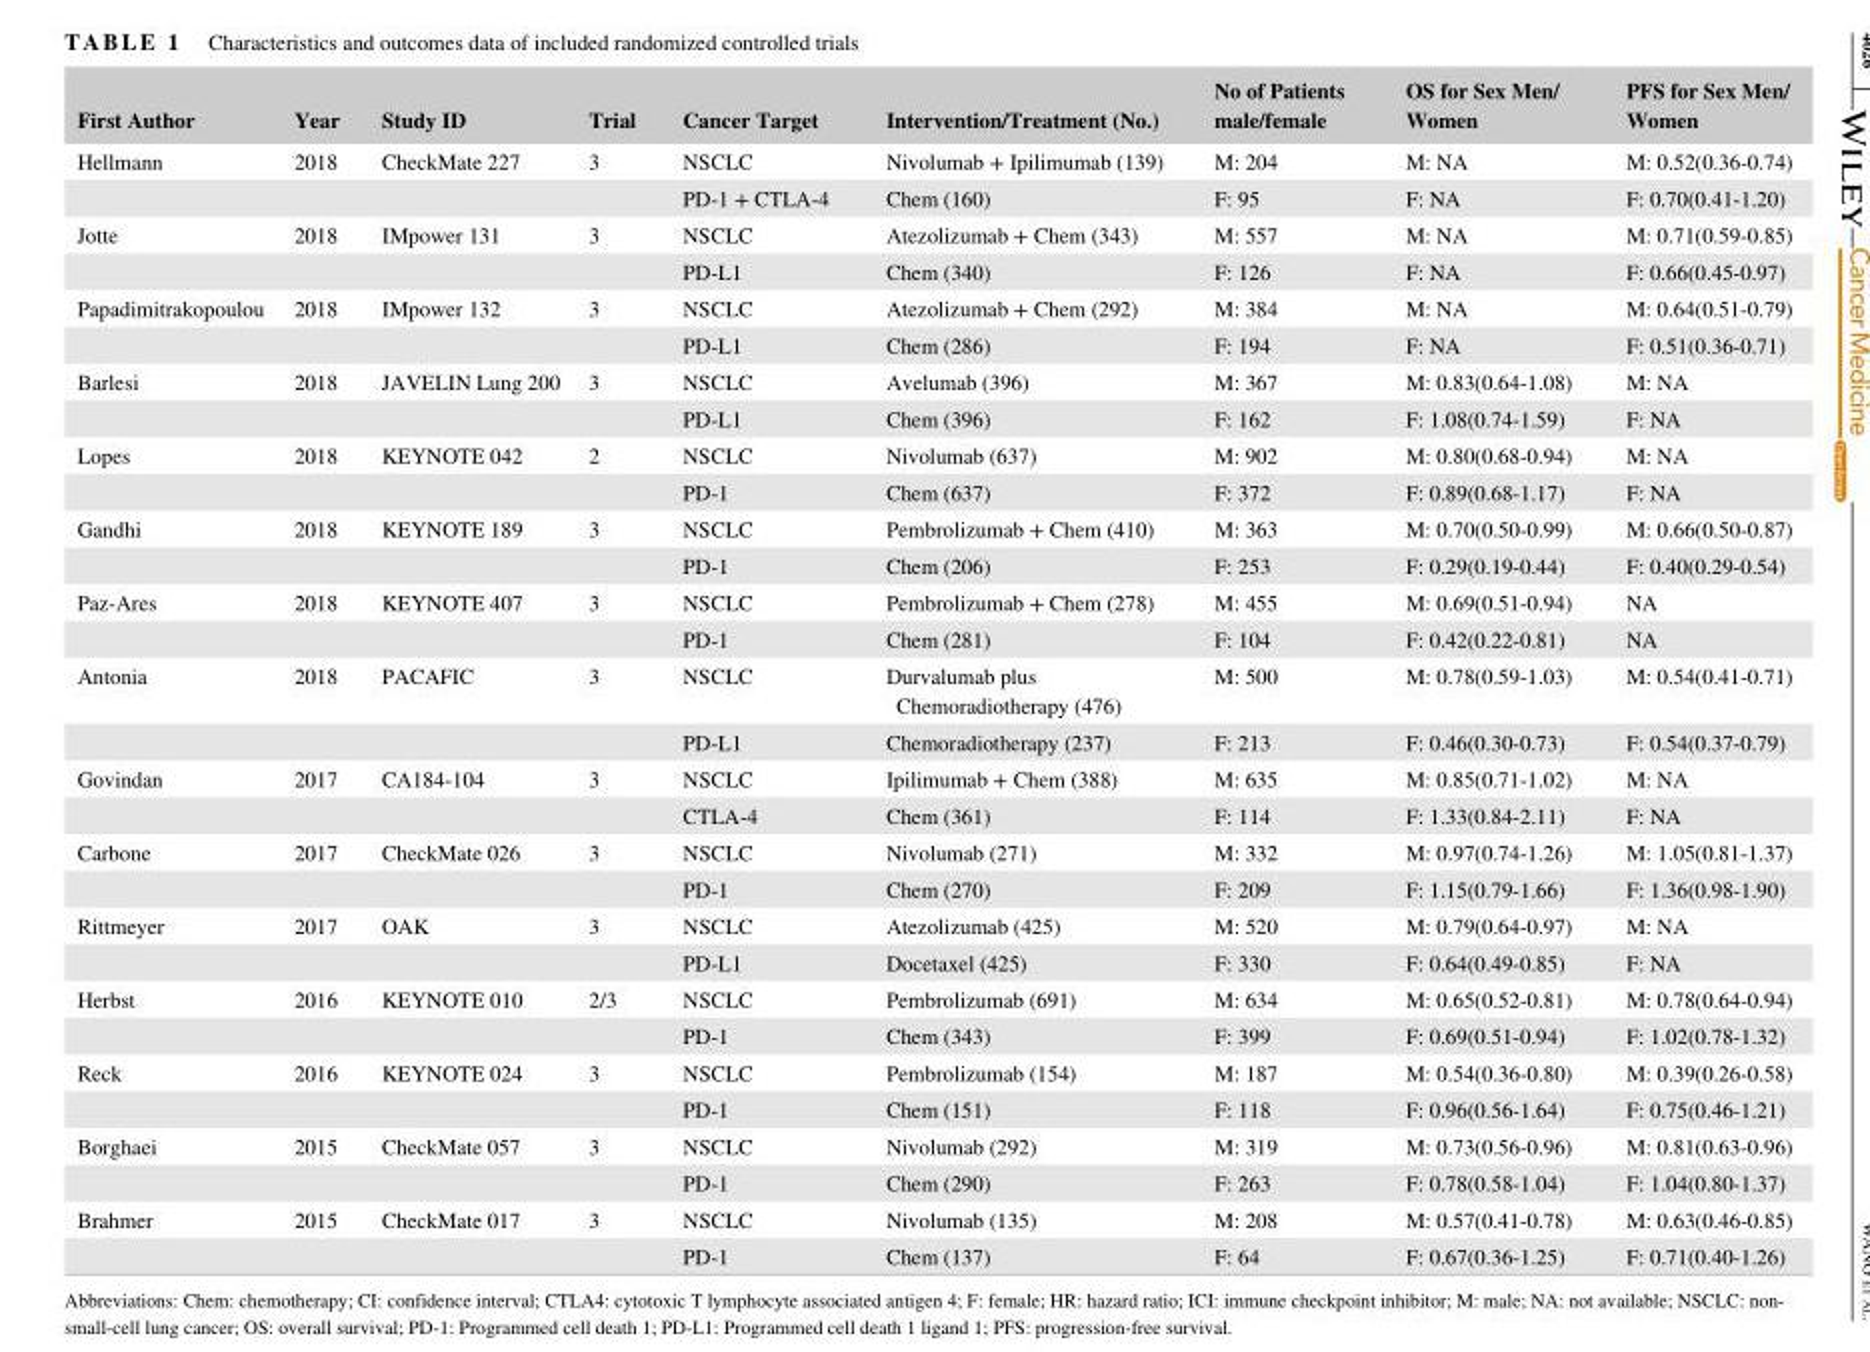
<table><thead><tr><td>First Author</td><td>Year</td><td>Study ID</td><td>Trial</td><td>Cancer Target</td><td>Intervention/Treatment (No.)</td><td>No of Patients male/female</td><td>OS for Sex Men/ Women</td><td>PFS for Sex Men/ Women</td></tr></thead><tbody><tr><td rowspan="2">Hellmann</td><td>2018</td><td>CheckMate 227</td><td>3</td><td>NSCLC</td><td>Nivolumab + Ipilimumab (139)</td><td>M: 204</td><td>M: NA</td><td>M: 0.52(0.36‐0.74)</td></tr><tr><td></td><td></td><td></td><td>PD‐1 + CTLA‐4</td><td>Chem (160)</td><td>F: 95</td><td>F: NA</td><td>F: 0.70(0.41‐1.20)</td></tr><tr><td rowspan="2">Jotte</td><td>2018</td><td>IMpower 131</td><td>3</td><td>NSCLC</td><td>Atezolizumab + Chem (343)</td><td>M: 557</td><td>M: NA</td><td>M: 0.71(0.59‐0.85)</td></tr><tr><td></td><td></td><td></td><td>PD‐L1</td><td>Chem (340)</td><td>F: 126</td><td>F: NA</td><td>F: 0.66(0.45‐0.97)</td></tr><tr><td rowspan="2">Papadimitrakopoulou</td><td>2018</td><td>IMpower 132</td><td>3</td><td>NSCLC</td><td>Atezolizumab + Chem (292)</td><td>M: 384</td><td>M: NA</td><td>M: 0.64(0.51‐0.79)</td></tr><tr><td></td><td></td><td></td><td>PD‐L1</td><td>Chem (286)</td><td>F: 194</td><td>F: NA</td><td>F: 0.51(0.36‐0.71)</td></tr><tr><td rowspan="2">Barlesi</td><td>2018</td><td>JAVELIN Lung 200</td><td>3</td><td>NSCLC</td><td>Avelumab (396)</td><td>M: 367</td><td>M: 0.83(0.64‐1.08)</td><td>M: NA</td></tr><tr><td></td><td></td><td></td><td>PD‐L1</td><td>Chem (396)</td><td>F: 162</td><td>F: 1.08(0.74‐1.59)</td><td>F: NA</td></tr><tr><td rowspan="2">Lopes</td><td>2018</td><td>KEYNOTE 042</td><td>2</td><td>NSCLC</td><td>Nivolumab (637)</td><td>M: 902</td><td>M: 0.80(0.68‐0.94)</td><td>M: NA</td></tr><tr><td></td><td></td><td></td><td>PD‐1</td><td>Chem (637)</td><td>F: 372</td><td>F: 0.89(0.68‐1.17)</td><td>F: NA</td></tr><tr><td rowspan="2">Gandhi</td><td>2018</td><td>KEYNOTE 189</td><td>3</td><td>NSCLC</td><td>Pembrolizumab + Chem (410)</td><td>M: 363</td><td>M: 0.70(0.50‐0.99)</td><td>M: 0.66(0.50‐0.87)</td></tr><tr><td></td><td></td><td></td><td>PD‐1</td><td>Chem (206)</td><td>F: 253</td><td>F: 0.29(0.19‐0.44)</td><td>F: 0.40(0.29‐0.54)</td></tr><tr><td rowspan="2">Paz‐Ares</td><td>2018</td><td>KEYNOTE 407</td><td>3</td><td>NSCLC</td><td>Pembrolizumab + Chem (278)</td><td>M: 455</td><td>M: 0.69(0.51‐0.94)</td><td>NA</td></tr><tr><td></td><td></td><td></td><td>PD‐1</td><td>Chem (281)</td><td>F: 104</td><td>F: 0.42(0.22‐0.81)</td><td>NA</td></tr><tr><td rowspan="2">Antonia</td><td>2018</td><td>PACAFIC</td><td>3</td><td>NSCLC</td><td>Durvalumab plus Chemoradiotherapy (476)</td><td>M: 500</td><td>M: 0.78(0.59‐1.03)</td><td>M: 0.54(0.41‐0.71)</td></tr><tr><td></td><td></td><td></td><td>PD‐L1</td><td>Chemoradiotherapy (237)</td><td>F: 213</td><td>F: 0.46(0.30‐0.73)</td><td>F: 0.54(0.37‐0.79)</td></tr><tr><td rowspan="2">Govindan</td><td>2017</td><td>CA184‐104</td><td>3</td><td>NSCLC</td><td>Ipilimumab + Chem (388)</td><td>M: 635</td><td>M: 0.85(0.71‐1.02)</td><td>M: NA</td></tr><tr><td></td><td></td><td></td><td>CTLA‐4</td><td>Chem (361)</td><td>F: 114</td><td>F: 1.33(0.84‐2.11)</td><td>F: NA</td></tr><tr><td rowspan="2">Carbone</td><td>2017</td><td>CheckMate 026</td><td>3</td><td>NSCLC</td><td>Nivolumab (271)</td><td>M: 332</td><td>M: 0.97(0.74‐1.26)</td><td>M: 1.05(0.81‐1.37)</td></tr><tr><td></td><td></td><td></td><td>PD‐1</td><td>Chem (270)</td><td>F: 209</td><td>F: 1.15(0.79‐1.66)</td><td>F: 1.36(0.98‐1.90)</td></tr><tr><td rowspan="2">Rittmeyer</td><td>2017</td><td>OAK</td><td>3</td><td>NSCLC</td><td>Atezolizumab (425)</td><td>M: 520</td><td>M: 0.79(0.64‐0.97)</td><td>M: NA</td></tr><tr><td></td><td></td><td></td><td>PD‐L1</td><td>Docetaxel (425)</td><td>F: 330</td><td>F: 0.64(0.49‐0.85)</td><td>F: NA</td></tr><tr><td rowspan="2">Herbst</td><td>2016</td><td>KEYNOTE 010</td><td>2/3</td><td>NSCLC</td><td>Pembrolizumab (691)</td><td>M: 634</td><td>M: 0.65(0.52‐0.81)</td><td>M: 0.78(0.64‐0.94)</td></tr><tr><td></td><td></td><td></td><td>PD‐1</td><td>Chem (343)</td><td>F: 399</td><td>F: 0.69(0.51‐0.94)</td><td>F: 1.02(0.78‐1.32)</td></tr><tr><td rowspan="2">Reck</td><td>2016</td><td>KEYNOTE 024</td><td>3</td><td>NSCLC</td><td>Pembrolizumab (154)</td><td>M: 187</td><td>M: 0.54(0.36‐0.80)</td><td>M: 0.39(0.26‐0.58)</td></tr><tr><td></td><td></td><td></td><td>PD‐1</td><td>Chem (151)</td><td>F: 118</td><td>F: 0.96(0.56‐1.64)</td><td>F: 0.75(0.46‐1.21)</td></tr><tr><td rowspan="2">Borghaei</td><td>2015</td><td>CheckMate 057</td><td>3</td><td>NSCLC</td><td>Nivolumab (292)</td><td>M: 319</td><td>M: 0.73(0.56‐0.96)</td><td>M: 0.81(0.63‐0.96)</td></tr><tr><td></td><td></td><td></td><td>PD‐1</td><td>Chem (290)</td><td>F: 263</td><td>F: 0.78(0.58‐1.04)</td><td>F: 1.04(0.80‐1.37)</td></tr><tr><td rowspan="2">Brahmer</td><td>2015</td><td>CheckMate 017</td><td>3</td><td>NSCLC</td><td>Nivolumab (135)</td><td>M: 208</td><td>M: 0.57(0.41‐0.78)</td><td>M: 0.63(0.46‐0.85)</td></tr><tr><td></td><td></td><td></td><td>PD‐1</td><td>Chem (137)</td><td>F: 64</td><td>F: 0.67(0.36‐1.25)</td><td>F: 0.71(0.40‐1.26)</td></tr></tbody></table>